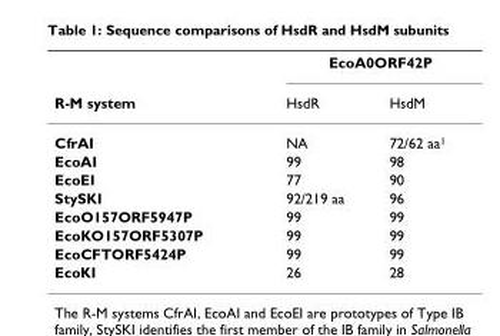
<table><thead><tr><td rowspan="2">R-M system</td><td colspan="2">EcoA0ORF42P</td></tr><tr><td>HsdR</td><td>HsdM</td></tr></thead><tbody><tr><td>CfrAI</td><td>NA</td><td>72/62 aa<sup>1</sup></td></tr><tr><td>EcoAI</td><td>99</td><td>98</td></tr><tr><td>EcoEI</td><td>77</td><td>90</td></tr><tr><td>StySKI</td><td>92/219 aa</td><td>96</td></tr><tr><td>EcoO157ORF5947P</td><td>99</td><td>99</td></tr><tr><td>EcoKO157ORF5307P</td><td>99</td><td>99</td></tr><tr><td>EcoCFTORF5424P</td><td>99</td><td>99</td></tr><tr><td>EcoKI</td><td>26</td><td>28</td></tr></tbody></table>